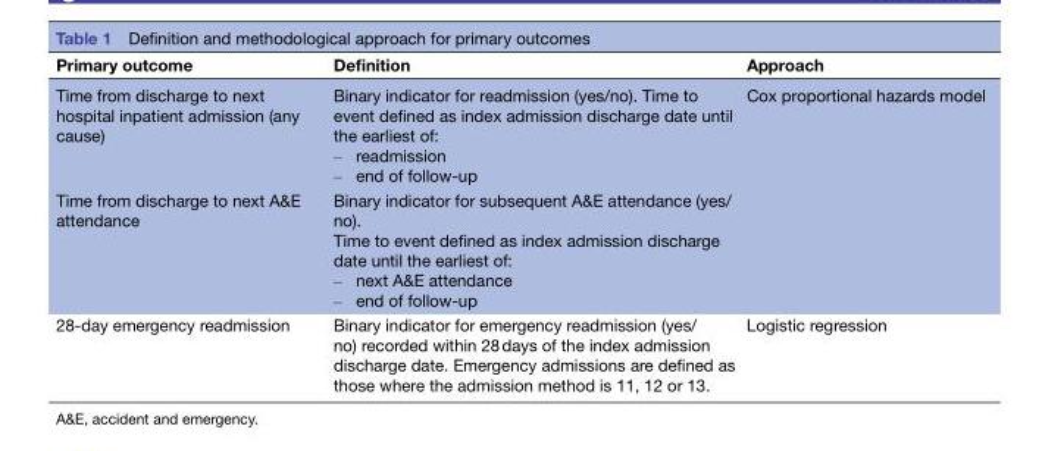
<table><thead><tr><td>Primary outcome</td><td>Definition</td><td>Approach</td></tr></thead><tbody><tr><td>Time from discharge to next hospital inpatient admission (any cause)</td><td>Binary indicator for readmission (yes/no). Time to event defined as index admission discharge date until the earliest of: – readmission – end of follow-up</td><td rowspan="2">Cox proportional hazards model</td></tr><tr><td>Time from discharge to next A&amp;E attendance</td><td>Binary indicator for subsequent A&amp;E attendance (yes/ no). Time to event defined as index admission discharge date until the earliest of: – next A&amp;E attendance – end of follow-up</td></tr><tr><td>28-day emergency readmission</td><td>Binary indicator for emergency readmission (yes/ no) recorded within 28 days of the index admission discharge date. Emergency admissions are defined as those where the admission method is 11, 12 or 13.</td><td>Logistic regression</td></tr></tbody></table>